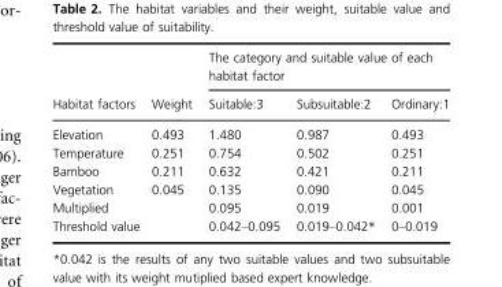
<table><thead><tr><td rowspan="2">Habitat factors</td><td rowspan="2">Weight</td><td colspan="3">The category and suitable value of each habitat factor</td></tr><tr><td>Suitable:3</td><td>Subsuitable:2</td><td>Ordinary:1</td></tr></thead><tbody><tr><td>Elevation</td><td>0.493</td><td>1.480</td><td>0.987</td><td>0.493</td></tr><tr><td>Temperature</td><td>0.251</td><td>0.754</td><td>0.502</td><td>0.251</td></tr><tr><td>Bamboo</td><td>0.211</td><td>0.632</td><td>0.421</td><td>0.211</td></tr><tr><td>Vegetation</td><td>0.045</td><td>0.135</td><td>0.090</td><td>0.045</td></tr><tr><td>Multiplied</td><td></td><td>0.095</td><td>0.019</td><td>0.001</td></tr><tr><td colspan="2">Threshold value</td><td>0.042–0.095</td><td>0.019–0.042*</td><td>0–0.019</td></tr></tbody></table>